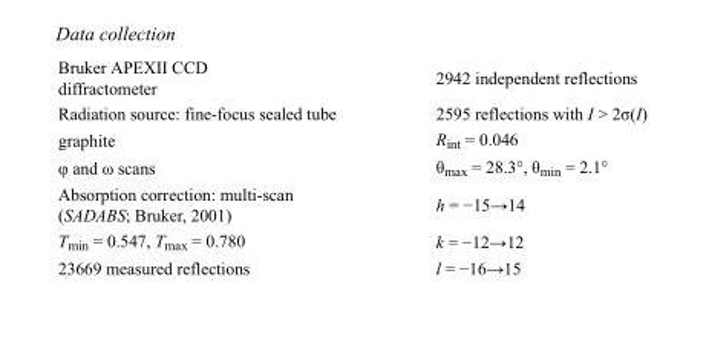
<table><tbody><tr><td>Bruker APEXII CCD diffractometer</td><td>2942 independent reflections</td></tr><tr><td>Radiation source: fine-focus sealed tube</td><td>2595 reflections with I &gt; 2σ(I)</td></tr><tr><td>graphite</td><td>R<sub>int</sub> = 0.046</td></tr><tr><td>φ and ω scans</td><td>θ<sub>max</sub> = 28.3°, θ<sub>min</sub> = 2.1°</td></tr><tr><td>Absorption correction: multi-scan (SADABS; Bruker, 2001)</td><td>h = −15→14</td></tr><tr><td>T<sub>min</sub> = 0.547, T<sub>max</sub> = 0.780</td><td>k = −12→12</td></tr><tr><td>23669 measured reflections</td><td>l = −16→15</td></tr></tbody></table>